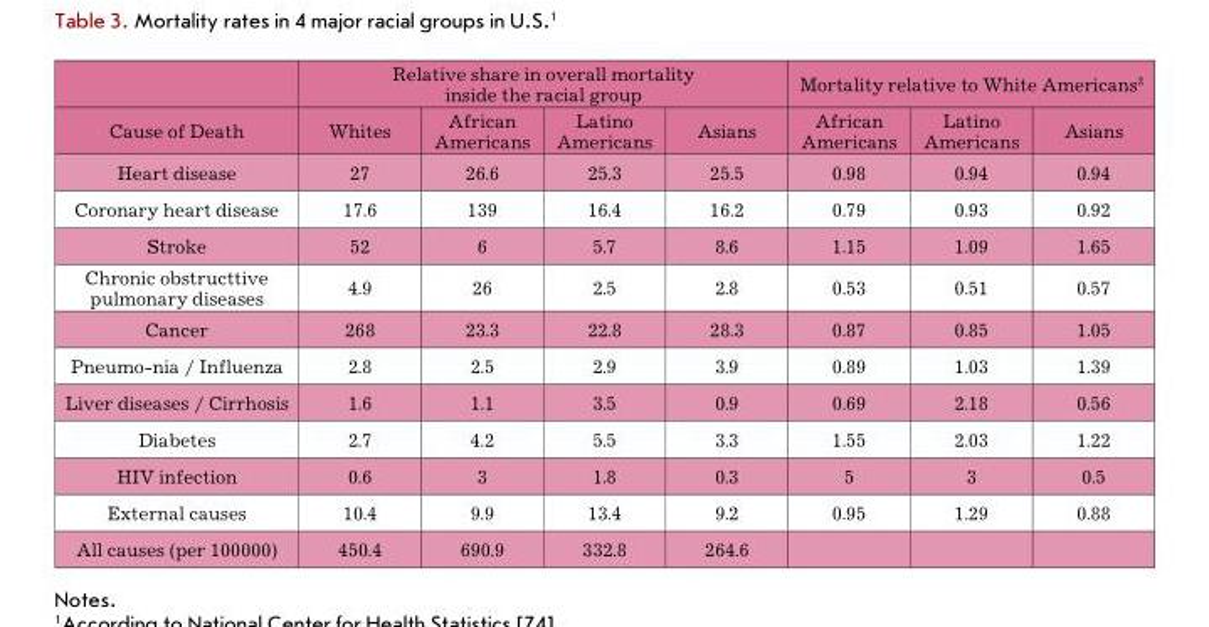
<table><thead><tr><td rowspan="2">Cause of Death</td><td colspan="4">Relative share in overall mortality inside the racial group</td><td colspan="3">Mortality relative to White Americans<sup>2</sup></td></tr><tr><td>Whites</td><td>African Americans</td><td>Latino Americans</td><td>Asians</td><td>African Americans</td><td>Latino Americans</td><td>Asians</td></tr></thead><tbody><tr><td>Heart disease</td><td>27</td><td>26.6</td><td>25.3</td><td>25.5</td><td>0.98</td><td>0.94</td><td>0.94</td></tr><tr><td>Coronary heart disease</td><td>17.6</td><td>139</td><td>16.4</td><td>16.2</td><td>0.79</td><td>0.93</td><td>0.92</td></tr><tr><td>Stroke</td><td>52</td><td>6</td><td>5.7</td><td>8.6</td><td>1.15</td><td>1.09</td><td>1.65</td></tr><tr><td>Chronic obstructtive pulmonary diseases</td><td>4.9</td><td>26</td><td>2.5</td><td>2.8</td><td>0.53</td><td>0.51</td><td>0.57</td></tr><tr><td>Cancer</td><td>268</td><td>23.3</td><td>22.8</td><td>28.3</td><td>0.87</td><td>0.85</td><td>1.05</td></tr><tr><td>Pneumo-nia / Influenza</td><td>2.8</td><td>2.5</td><td>2.9</td><td>3.9</td><td>0.89</td><td>1.03</td><td>1.39</td></tr><tr><td>Liver diseases / Cirrhosis</td><td>1.6</td><td>1.1</td><td>3.5</td><td>0.9</td><td>0.69</td><td>2.18</td><td>0.56</td></tr><tr><td>Diabetes</td><td>2.7</td><td>4.2</td><td>5.5</td><td>3.3</td><td>1.55</td><td>2.03</td><td>1.22</td></tr><tr><td>HIV infection</td><td>0.6</td><td>3</td><td>1.8</td><td>0.3</td><td>5</td><td>3</td><td>0.5</td></tr><tr><td>External causes</td><td>10.4</td><td>9.9</td><td>13.4</td><td>9.2</td><td>0.95</td><td>1.29</td><td>0.88</td></tr><tr><td>All causes (per 100000)</td><td>450.4</td><td>690.9</td><td>332.8</td><td>264.6</td><td></td><td></td><td></td></tr></tbody></table>